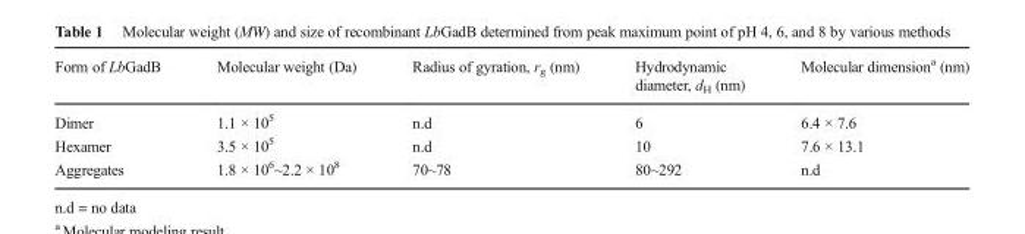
<table><thead><tr><td>Form of LbGadB</td><td>Molecular weight (Da)</td><td>Radius of gyration, r<sub>g</sub> (nm)</td><td>Hydrodynamic diameter, d<sub>H</sub> (nm)</td><td>Molecular dimension<sup>a</sup> (nm)</td></tr></thead><tbody><tr><td>Dimer</td><td>1.1 × 10<sup>5</sup></td><td>n.d</td><td>6</td><td>6.4 × 7.6</td></tr><tr><td>Hexamer</td><td>3.5 × 10<sup>5</sup></td><td>n.d</td><td>10</td><td>7.6 × 13.1</td></tr><tr><td>Aggregates</td><td>1.8 × 10<sup>6</sup>~2.2 × 10<sup>8</sup></td><td>70~78</td><td>80~292</td><td>n.d</td></tr></tbody></table>